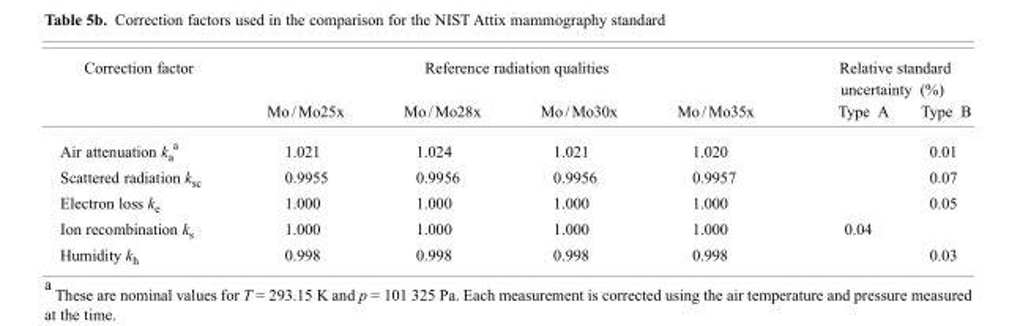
<table><thead><tr><td rowspan="2">Correction factor</td><td colspan="4">Reference radiation qualities</td><td colspan="2">Relative standard uncertainty (%)</td></tr><tr><td>Mo/Mo25x</td><td>Mo/Mo28x</td><td>Mo/Mo30x</td><td>Mo/Mo35x</td><td>Type A</td><td>Type B</td></tr></thead><tbody><tr><td>Air attenuation k<sub>a</sub> <sup>a</sup></td><td>1.021</td><td>1.024</td><td>1.021</td><td>1.020</td><td></td><td>0.01</td></tr><tr><td>Scattered radiation k<sub>sc</sub></td><td>0.9955</td><td>0.9956</td><td>0.9956</td><td>0.9957</td><td></td><td>0.07</td></tr><tr><td>Electron loss k<sub>e</sub></td><td>1.000</td><td>1.000</td><td>1.000</td><td>1.000</td><td></td><td>0.05</td></tr><tr><td>Ion recombination k<sub>s</sub></td><td>1.000</td><td>1.000</td><td>1.000</td><td>1.000</td><td>0.04</td><td></td></tr><tr><td>Humidity k<sub>h</sub></td><td>0.998</td><td>0.998</td><td>0.998</td><td>0.998</td><td></td><td>0.03</td></tr></tbody></table>